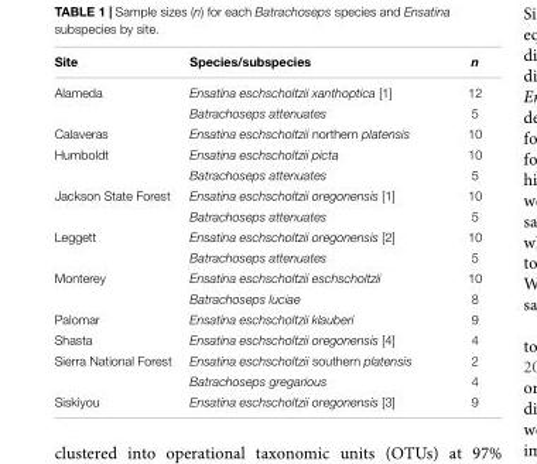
<table><thead><tr><td>Site</td><td>Species/subspecies</td><td>n</td></tr></thead><tbody><tr><td rowspan="2">Alameda</td><td>Ensatina eschscholtzii xanthoptica [1]</td><td>12</td></tr><tr><td>Batrachoseps attenuates</td><td>5</td></tr><tr><td>Calaveras</td><td>Ensatina eschscholtzii northern platensis</td><td>10</td></tr><tr><td rowspan="2">Humboldt</td><td>Ensatina eschscholtzii picta</td><td>10</td></tr><tr><td>Batrachoseps attenuates</td><td>5</td></tr><tr><td rowspan="2">Jackson State Forest</td><td>Ensatina eschscholtzii oregonensis [1]</td><td>10</td></tr><tr><td>Batrachoseps attenuates</td><td>5</td></tr><tr><td rowspan="2">Leggett</td><td>Ensatina eschscholtzii oregonensis [2]</td><td>10</td></tr><tr><td>Batrachoseps attenuates</td><td>5</td></tr><tr><td rowspan="2">Monterey</td><td>Ensatina eschscholtzii eschscholtzii</td><td>10</td></tr><tr><td>Batrachoseps luciae</td><td>8</td></tr><tr><td>Palomar</td><td>Ensatina eschscholtzii klauberi</td><td>9</td></tr><tr><td>Shasta</td><td>Ensatina eschscholtzii oregonensis [4]</td><td>4</td></tr><tr><td rowspan="2">Sierra National Forest</td><td>Ensatina eschscholtzii southern platensis</td><td>2</td></tr><tr><td>Batrachoseps gregarious</td><td>4</td></tr><tr><td>Siskiyou</td><td>Ensatina eschscholtzii oregonensis [3]</td><td>9</td></tr></tbody></table>